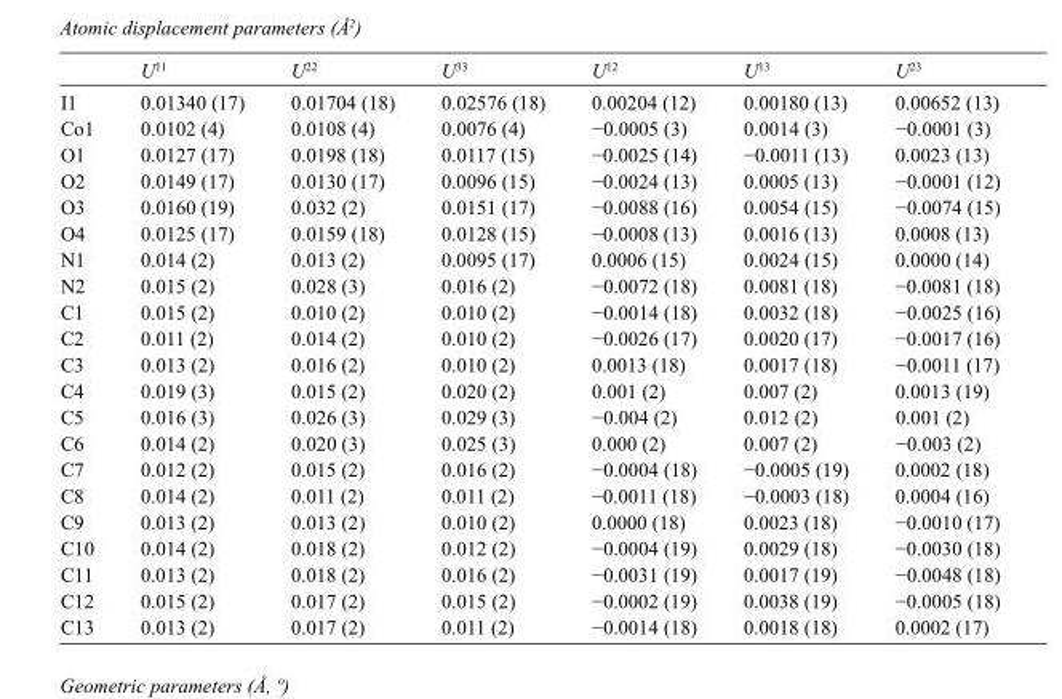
<table><thead><tr><td></td><td>U<sup>11</sup></td><td>U<sup>22</sup></td><td>U<sup>33</sup></td><td>U<sup>12</sup></td><td>U<sup>13</sup></td><td>U<sup>23</sup></td></tr></thead><tbody><tr><td>I1</td><td>0.01340 (17)</td><td>0.01704 (18)</td><td>0.02576 (18)</td><td>0.00204 (12)</td><td>0.00180 (13)</td><td>0.00652 (13)</td></tr><tr><td>Co1</td><td>0.0102 (4)</td><td>0.0108 (4)</td><td>0.0076 (4)</td><td>−0.0005 (3)</td><td>0.0014 (3)</td><td>−0.0001 (3)</td></tr><tr><td>O1</td><td>0.0127 (17)</td><td>0.0198 (18)</td><td>0.0117 (15)</td><td>−0.0025 (14)</td><td>−0.0011 (13)</td><td>0.0023 (13)</td></tr><tr><td>O2</td><td>0.0149 (17)</td><td>0.0130 (17)</td><td>0.0096 (15)</td><td>−0.0024 (13)</td><td>0.0005 (13)</td><td>−0.0001 (12)</td></tr><tr><td>O3</td><td>0.0160 (19)</td><td>0.032 (2)</td><td>0.0151 (17)</td><td>−0.0088 (16)</td><td>0.0054 (15)</td><td>−0.0074 (15)</td></tr><tr><td>O4</td><td>0.0125 (17)</td><td>0.0159 (18)</td><td>0.0128 (15)</td><td>−0.0008 (13)</td><td>0.0016 (13)</td><td>0.0008 (13)</td></tr><tr><td>N1</td><td>0.014 (2)</td><td>0.013 (2)</td><td>0.0095 (17)</td><td>0.0006 (15)</td><td>0.0024 (15)</td><td>0.0000 (14)</td></tr><tr><td>N2</td><td>0.015 (2)</td><td>0.028 (3)</td><td>0.016 (2)</td><td>−0.0072 (18)</td><td>0.0081 (18)</td><td>−0.0081 (18)</td></tr><tr><td>C1</td><td>0.015 (2)</td><td>0.010 (2)</td><td>0.010 (2)</td><td>−0.0014 (18)</td><td>0.0032 (18)</td><td>−0.0025 (16)</td></tr><tr><td>C2</td><td>0.011 (2)</td><td>0.014 (2)</td><td>0.010 (2)</td><td>−0.0026 (17)</td><td>0.0020 (17)</td><td>−0.0017 (16)</td></tr><tr><td>C3</td><td>0.013 (2)</td><td>0.016 (2)</td><td>0.010 (2)</td><td>0.0013 (18)</td><td>0.0017 (18)</td><td>−0.0011 (17)</td></tr><tr><td>C4</td><td>0.019 (3)</td><td>0.015 (2)</td><td>0.020 (2)</td><td>0.001 (2)</td><td>0.007 (2)</td><td>0.0013 (19)</td></tr><tr><td>C5</td><td>0.016 (3)</td><td>0.026 (3)</td><td>0.029 (3)</td><td>−0.004 (2)</td><td>0.012 (2)</td><td>0.001 (2)</td></tr><tr><td>C6</td><td>0.014 (2)</td><td>0.020 (3)</td><td>0.025 (3)</td><td>0.000 (2)</td><td>0.007 (2)</td><td>−0.003 (2)</td></tr><tr><td>C7</td><td>0.012 (2)</td><td>0.015 (2)</td><td>0.016 (2)</td><td>−0.0004 (18)</td><td>−0.0005 (19)</td><td>0.0002 (18)</td></tr><tr><td>C8</td><td>0.014 (2)</td><td>0.011 (2)</td><td>0.011 (2)</td><td>−0.0011 (18)</td><td>−0.0003 (18)</td><td>0.0004 (16)</td></tr><tr><td>C9</td><td>0.013 (2)</td><td>0.013 (2)</td><td>0.010 (2)</td><td>0.0000 (18)</td><td>0.0023 (18)</td><td>−0.0010 (17)</td></tr><tr><td>C10</td><td>0.014 (2)</td><td>0.018 (2)</td><td>0.012 (2)</td><td>−0.0004 (19)</td><td>0.0029 (18)</td><td>−0.0030 (18)</td></tr><tr><td>C11</td><td>0.013 (2)</td><td>0.018 (2)</td><td>0.016 (2)</td><td>−0.0031 (19)</td><td>0.0017 (19)</td><td>−0.0048 (18)</td></tr><tr><td>C12</td><td>0.015 (2)</td><td>0.017 (2)</td><td>0.015 (2)</td><td>−0.0002 (19)</td><td>0.0038 (19)</td><td>−0.0005 (18)</td></tr><tr><td>C13</td><td>0.013 (2)</td><td>0.017 (2)</td><td>0.011 (2)</td><td>−0.0014 (18)</td><td>0.0018 (18)</td><td>0.0002 (17)</td></tr></tbody></table>